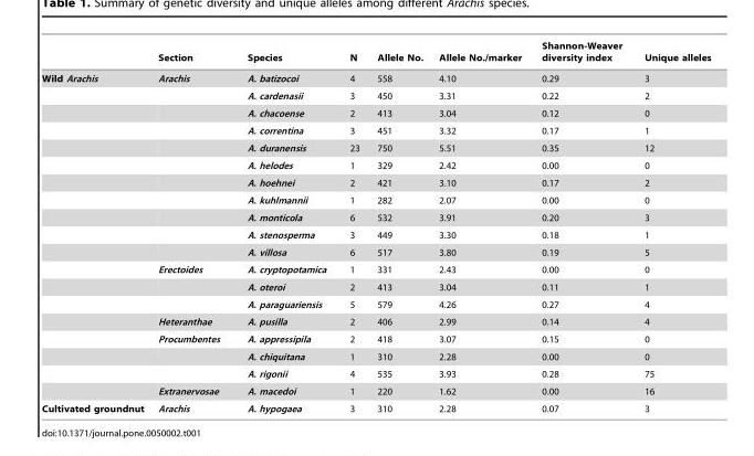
<table><thead><tr><td></td><td>Section</td><td>Species</td><td>N</td><td>Allele No.</td><td>Allele No./marker</td><td>Shannon-Weaver diversity index</td><td>Unique alleles</td></tr></thead><tbody><tr><td rowspan="19">Wild Arachis</td><td>Arachis</td><td>A. batizocoi</td><td>4</td><td>558</td><td>4.10</td><td>0.29</td><td>3</td></tr><tr><td></td><td>A. cardenasii</td><td>3</td><td>450</td><td>3.31</td><td>0.22</td><td>2</td></tr><tr><td></td><td>A. chacoense</td><td>2</td><td>413</td><td>3.04</td><td>0.12</td><td>0</td></tr><tr><td></td><td>A. correntina</td><td>3</td><td>451</td><td>3.32</td><td>0.17</td><td>1</td></tr><tr><td></td><td>A. duranensis</td><td>23</td><td>750</td><td>5.51</td><td>0.35</td><td>12</td></tr><tr><td></td><td>A. helodes</td><td>1</td><td>329</td><td>2.42</td><td>0.00</td><td>0</td></tr><tr><td></td><td>A. hoehnei</td><td>2</td><td>421</td><td>3.10</td><td>0.17</td><td>2</td></tr><tr><td></td><td>A. kuhlmannii</td><td>1</td><td>282</td><td>2.07</td><td>0.00</td><td>0</td></tr><tr><td></td><td>A. monticola</td><td>6</td><td>532</td><td>3.91</td><td>0.20</td><td>3</td></tr><tr><td></td><td>A. stenosperma</td><td>3</td><td>449</td><td>3.30</td><td>0.18</td><td>1</td></tr><tr><td></td><td>A. villosa</td><td>6</td><td>517</td><td>3.80</td><td>0.19</td><td>5</td></tr><tr><td>Erectoides</td><td>A. cryptopotamica</td><td>1</td><td>331</td><td>2.43</td><td>0.00</td><td>0</td></tr><tr><td></td><td>A. oteroi</td><td>2</td><td>413</td><td>3.04</td><td>0.11</td><td>1</td></tr><tr><td></td><td>A. paraguariensis</td><td>5</td><td>579</td><td>4.26</td><td>0.27</td><td>4</td></tr><tr><td>Heteranthae</td><td>A. pusilla</td><td>2</td><td>406</td><td>2.99</td><td>0.14</td><td>4</td></tr><tr><td>Procumbentes</td><td>A. appressipila</td><td>2</td><td>418</td><td>3.07</td><td>0.15</td><td>0</td></tr><tr><td></td><td>A. chiquitana</td><td>1</td><td>310</td><td>2.28</td><td>0.00</td><td>0</td></tr><tr><td></td><td>A. rigonii</td><td>4</td><td>535</td><td>3.93</td><td>0.28</td><td>75</td></tr><tr><td>Extranervosae</td><td>A. macedoi</td><td>1</td><td>220</td><td>1.62</td><td>0.00</td><td>16</td></tr><tr><td>Cultivated groundnut</td><td>Arachis</td><td>A. hypogaea</td><td>3</td><td>310</td><td>2.28</td><td>0.07</td><td>3</td></tr></tbody></table>